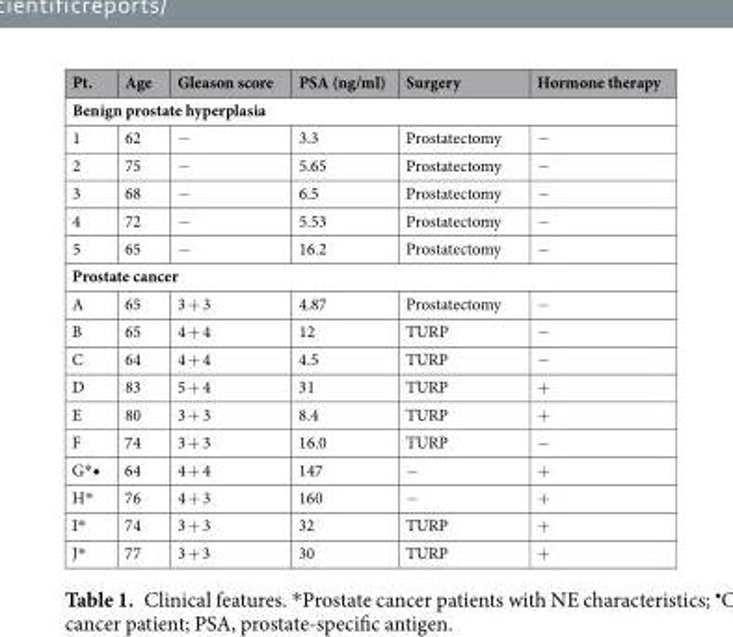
<table><thead><tr><td>Pt.</td><td>Age</td><td>Gleason score</td><td>PSA (ng/ml)</td><td>Surgery</td><td>Hormone therapy</td></tr></thead><tbody><tr><td colspan="6">Benign prostate hyperplasia</td></tr><tr><td>1</td><td>62</td><td>−</td><td>3.3</td><td>Prostatectomy</td><td>−</td></tr><tr><td>2</td><td>75</td><td>−</td><td>5.65</td><td>Prostatectomy</td><td>−</td></tr><tr><td>3</td><td>68</td><td>−</td><td>6.5</td><td>Prostatectomy</td><td>−</td></tr><tr><td>4</td><td>72</td><td>−</td><td>5.53</td><td>Prostatectomy</td><td>−</td></tr><tr><td>5</td><td>65</td><td>−</td><td>16.2</td><td>Prostatectomy</td><td>−</td></tr><tr><td colspan="6">Prostate cancer</td></tr><tr><td>A</td><td>65</td><td>3 + 3</td><td>4.87</td><td>Prostatectomy</td><td>−</td></tr><tr><td>B</td><td>65</td><td>4 + 4</td><td>12</td><td>TURP</td><td>−</td></tr><tr><td>C</td><td>64</td><td>4 + 4</td><td>4.5</td><td>TURP</td><td>−</td></tr><tr><td>D</td><td>83</td><td>5 + 4</td><td>31</td><td>TURP</td><td>+</td></tr><tr><td>E</td><td>80</td><td>3 + 3</td><td>8.4</td><td>TURP</td><td>+</td></tr><tr><td>F</td><td>74</td><td>3 + 3</td><td>16.0</td><td>TURP</td><td>−</td></tr><tr><td>G*◆</td><td>64</td><td>4 + 4</td><td>147</td><td>−</td><td>+</td></tr><tr><td>H*</td><td>76</td><td>4 + 3</td><td>160</td><td>−</td><td>+</td></tr><tr><td>I*</td><td>74</td><td>3 + 3</td><td>32</td><td>TURP</td><td>+</td></tr><tr><td>J*</td><td>77</td><td>3 + 3</td><td>30</td><td>TURP</td><td>+</td></tr></tbody></table>